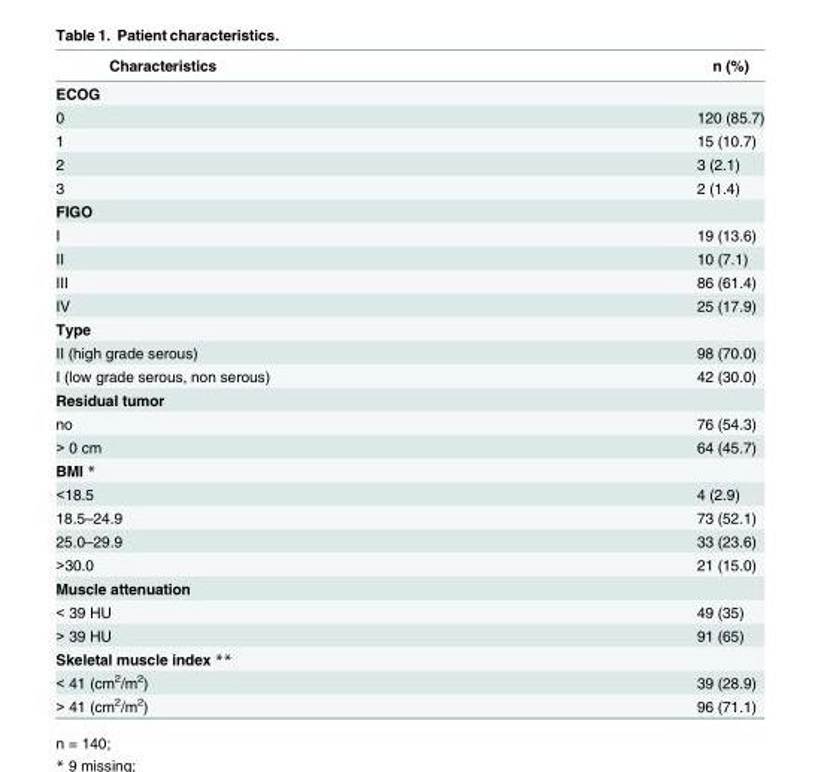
<table><thead><tr><td>Characteristics</td><td>n (%)</td></tr></thead><tbody><tr><td colspan="2">ECOG</td></tr><tr><td>0</td><td>120 (85.7)</td></tr><tr><td>1</td><td>15 (10.7)</td></tr><tr><td>2</td><td>3 (2.1)</td></tr><tr><td>3</td><td>2 (1.4)</td></tr><tr><td colspan="2">FIGO</td></tr><tr><td>I</td><td>19 (13.6)</td></tr><tr><td>II</td><td>10 (7.1)</td></tr><tr><td>III</td><td>86 (61.4)</td></tr><tr><td>IV</td><td>25 (17.9)</td></tr><tr><td colspan="2">Type</td></tr><tr><td>II (high grade serous)</td><td>98 (70.0)</td></tr><tr><td>I (low grade serous, non serous)</td><td>42 (30.0)</td></tr><tr><td colspan="2">Residual tumor</td></tr><tr><td>no</td><td>76 (54.3)</td></tr><tr><td>&gt; 0 cm</td><td>64 (45.7)</td></tr><tr><td colspan="2">BMI *</td></tr><tr><td>&lt;18.5</td><td>4 (2.9)</td></tr><tr><td>18.5–24.9</td><td>73 (52.1)</td></tr><tr><td>25.0–29.9</td><td>33 (23.6)</td></tr><tr><td>&gt;30.0</td><td>21 (15.0)</td></tr><tr><td colspan="2">Muscle attenuation</td></tr><tr><td>&lt; 39 HU</td><td>49 (35)</td></tr><tr><td>&gt; 39 HU</td><td>91 (65)</td></tr><tr><td colspan="2">Skeletal muscle index **</td></tr><tr><td>&lt; 41 (cm<sup>2</sup>/m<sup>2</sup>)</td><td>39 (28.9)</td></tr><tr><td>&gt; 41 (cm<sup>2</sup>/m<sup>2</sup>)</td><td>96 (71.1)</td></tr></tbody></table>